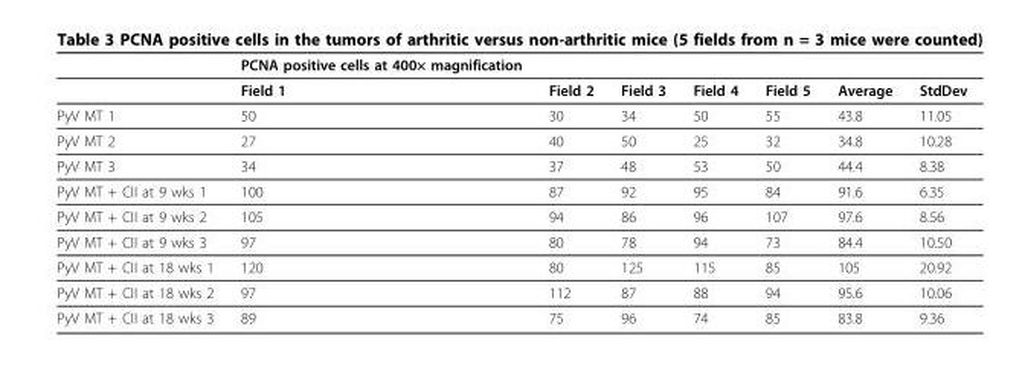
<table><thead><tr><td></td><td>PCNA positive cells at 400× magnification</td><td></td><td></td><td></td><td></td><td></td><td></td></tr></thead><tbody><tr><td></td><td>Field 1</td><td>Field 2</td><td>Field 3</td><td>Field 4</td><td>Field 5</td><td>Average</td><td>StdDev</td></tr><tr><td>PyV MT 1</td><td>50</td><td>30</td><td>34</td><td>50</td><td>55</td><td>43.8</td><td>11.05</td></tr><tr><td>PyV MT 2</td><td>27</td><td>40</td><td>50</td><td>25</td><td>32</td><td>34.8</td><td>10.28</td></tr><tr><td>PyV MT 3</td><td>34</td><td>37</td><td>48</td><td>53</td><td>50</td><td>44.4</td><td>8.38</td></tr><tr><td>PyV MT + CII at 9 wks 1</td><td>100</td><td>87</td><td>92</td><td>95</td><td>84</td><td>91.6</td><td>6.35</td></tr><tr><td>PyV MT + CII at 9 wks 2</td><td>105</td><td>94</td><td>86</td><td>96</td><td>107</td><td>97.6</td><td>8.56</td></tr><tr><td>PyV MT + CII at 9 wks 3</td><td>97</td><td>80</td><td>78</td><td>94</td><td>73</td><td>84.4</td><td>10.50</td></tr><tr><td>PyV MT + CII at 18 wks 1</td><td>120</td><td>80</td><td>125</td><td>115</td><td>85</td><td>105</td><td>20.92</td></tr><tr><td>PyV MT + CII at 18 wks 2</td><td>97</td><td>112</td><td>87</td><td>88</td><td>94</td><td>95.6</td><td>10.06</td></tr><tr><td>PyV MT + CII at 18 wks 3</td><td>89</td><td>75</td><td>96</td><td>74</td><td>85</td><td>83.8</td><td>9.36</td></tr></tbody></table>